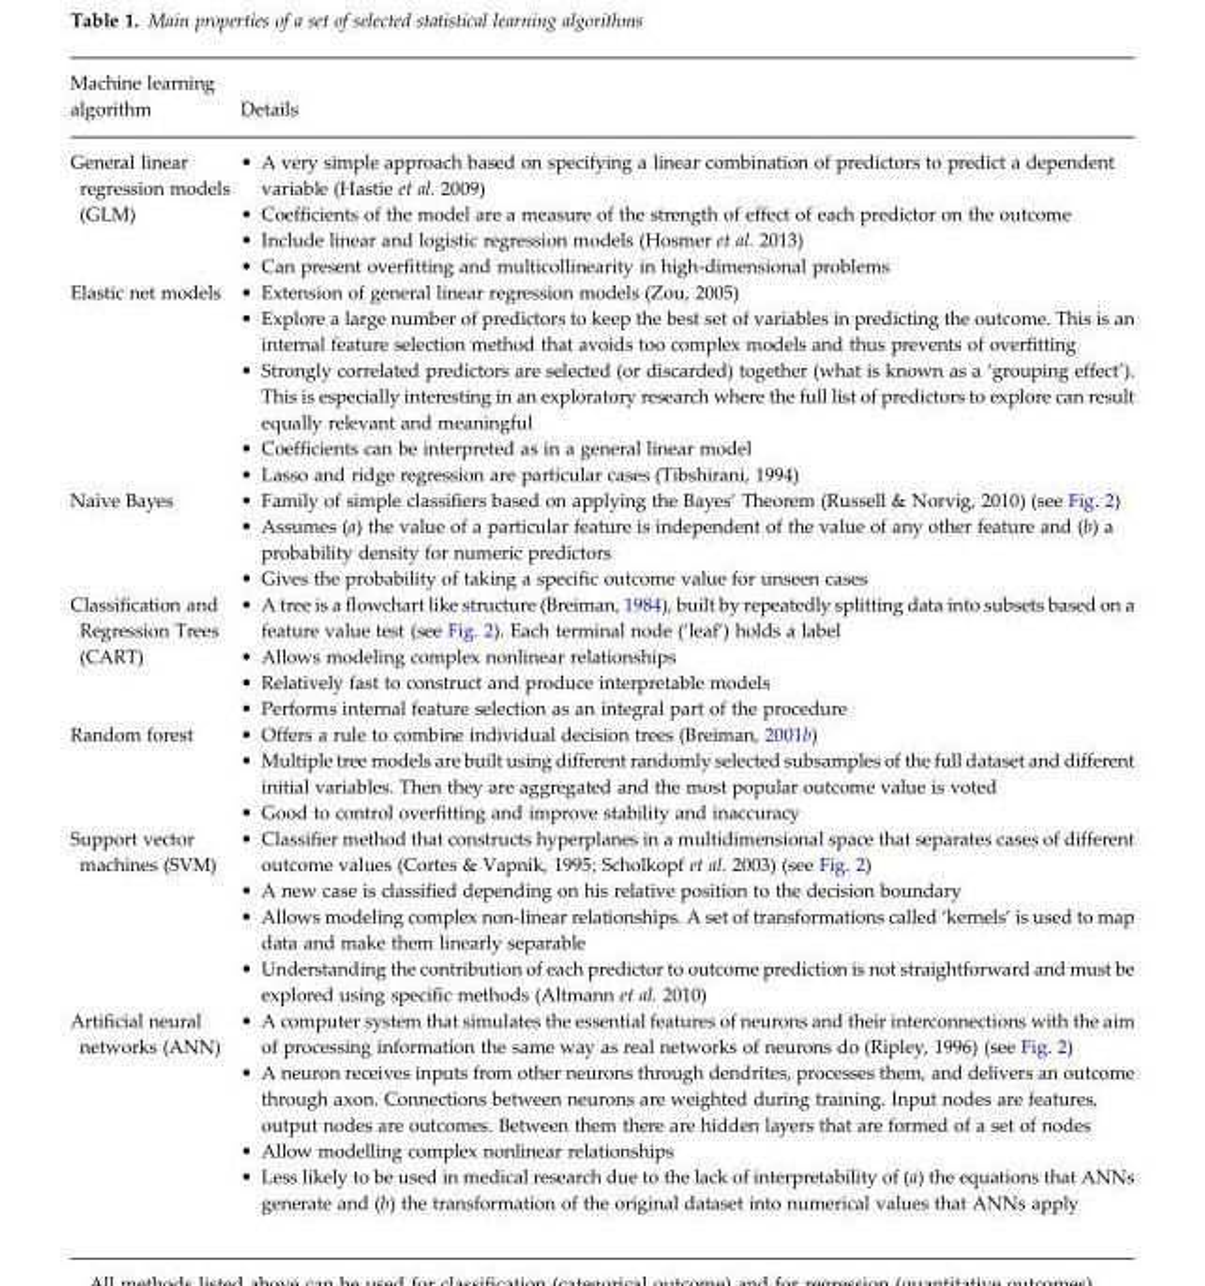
<table><thead><tr><td>Machine learning algorithm</td><td>Details</td></tr></thead><tbody><tr><td>General linear regression models (GLM)</td><td>• A very simple approach based on specifying a linear combination of predictors to predict a dependent variable (Hastie et al. 2009) • Coefficients of the model are a measure of the strength of effect of each predictor on the outcome • Include linear and logistic regression models (Hosmer et al. 2013) • Can present overfitting and multicollinearity in high-dimensional problems</td></tr><tr><td>Elastic net models</td><td>• Extension of general linear regression models (Zou, 2005) • Explore a large number of predictors to keep the best set of variables in predicting the outcome. This is an internal feature selection method that avoids too complex models and thus prevents of overfitting • Strongly correlated predictors are selected (or discarded) together (what is known as a ‘grouping effect’). This is especially interesting in an exploratory research where the full list of predictors to explore can result equally relevant and meaningful • Coefficients can be interpreted as in a general linear model • Lasso and ridge regression are particular cases (Tibshirani, 1994)</td></tr><tr><td>Naive Bayes</td><td>• Family of simple classifiers based on applying the Bayes’ Theorem (Russell &amp; Norvig, 2010) (see Fig. 2) • Assumes (a) the value of a particular feature is independent of the value of any other feature and (b) a probability density for numeric predictors • Gives the probability of taking a specific outcome value for unseen cases</td></tr><tr><td>Classification and Regression Trees (CART)</td><td>• A tree is a flowchart like structure (Breiman, 1984), built by repeatedly splitting data into subsets based on a feature value test (see Fig. 2). Each terminal node (‘leaf’) holds a label • Allows modeling complex nonlinear relationships • Relatively fast to construct and produce interpretable models • Performs internal feature selection as an integral part of the procedure</td></tr><tr><td>Random forest</td><td>• Offers a rule to combine individual decision trees (Breiman, 2001b) • Multiple tree models are built using different randomly selected subsamples of the full dataset and different initial variables. Then they are aggregated and the most popular outcome value is voted • Good to control overfitting and improve stability and inaccuracy</td></tr><tr><td>Support vector machines (SVM)</td><td>• Classifier method that constructs hyperplanes in a multidimensional space that separates cases of different outcome values (Cortes &amp; Vapnik, 1995; Scholkopf et al. 2003) (see Fig. 2) • A new case is classified depending on his relative position to the decision boundary • Allows modeling complex non-linear relationships. A set of transformations called ‘kernels’ is used to map data and make them linearly separable • Understanding the contribution of each predictor to outcome prediction is not straightforward and must be explored using specific methods (Altmann et al. 2010)</td></tr><tr><td>Artificial neural networks (ANN)</td><td>• A computer system that simulates the essential features of neurons and their interconnections with the aim of processing information the same way as real networks of neurons do (Ripley, 1996) (see Fig. 2) • A neuron receives inputs from other neurons through dendrites, processes them, and delivers an outcome through axon. Connections between neurons are weighted during training. Input nodes are features, output nodes are outcomes. Between them there are hidden layers that are formed of a set of nodes • Allow modelling complex nonlinear relationships • Less likely to be used in medical research due to the lack of interpretability of (a) the equations that ANNs generate and (b) the transformation of the original dataset into numerical values that ANNs apply</td></tr></tbody></table>